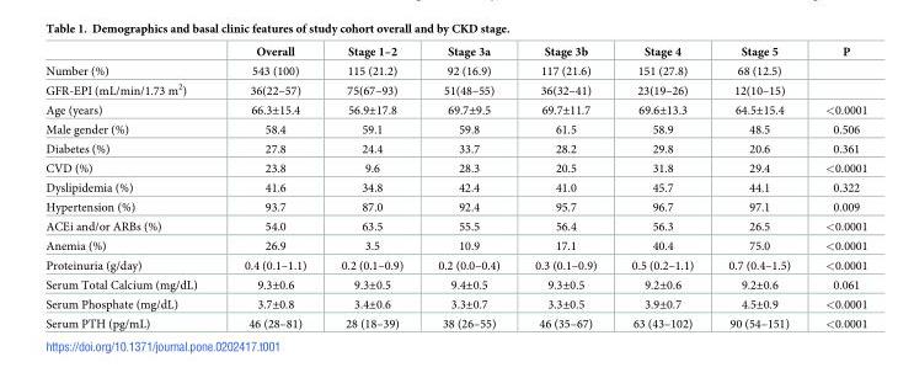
<table><thead><tr><td></td><td>Overall</td><td>Stage 1–2</td><td>Stage 3a</td><td>Stage 3b</td><td>Stage 4</td><td>Stage 5</td><td>P</td></tr></thead><tbody><tr><td>Number (%)</td><td>543 (100)</td><td>115 (21.2)</td><td>92 (16.9)</td><td>117 (21.6)</td><td>151 (27.8)</td><td>68 (12.5)</td><td></td></tr><tr><td>GFR-EPI (mL/min/1.73 m<sup>2</sup>)</td><td>36(22–57)</td><td>75(67–93)</td><td>51(48–55)</td><td>36(32–41)</td><td>23(19–26)</td><td>12(10–15)</td><td></td></tr><tr><td>Age (years)</td><td>66.3±15.4</td><td>56.9±17.8</td><td>69.7±9.5</td><td>69.7±11.7</td><td>69.6±13.3</td><td>64.5±15.4</td><td>&lt;0.0001</td></tr><tr><td>Male gender (%)</td><td>58.4</td><td>59.1</td><td>59.8</td><td>61.5</td><td>58.9</td><td>48.5</td><td>0.506</td></tr><tr><td>Diabetes (%)</td><td>27.8</td><td>24.4</td><td>33.7</td><td>28.2</td><td>29.8</td><td>20.6</td><td>0.361</td></tr><tr><td>CVD (%)</td><td>23.8</td><td>9.6</td><td>28.3</td><td>20.5</td><td>31.8</td><td>29.4</td><td>&lt;0.0001</td></tr><tr><td>Dyslipidemia (%)</td><td>41.6</td><td>34.8</td><td>42.4</td><td>41.0</td><td>45.7</td><td>44.1</td><td>0.322</td></tr><tr><td>Hypertension (%)</td><td>93.7</td><td>87.0</td><td>92.4</td><td>95.7</td><td>96.7</td><td>97.1</td><td>0.009</td></tr><tr><td>ACEi and/or ARBs (%)</td><td>54.0</td><td>63.5</td><td>55.5</td><td>56.4</td><td>56.3</td><td>26.5</td><td>&lt;0.0001</td></tr><tr><td>Anemia (%)</td><td>26.9</td><td>3.5</td><td>10.9</td><td>17.1</td><td>40.4</td><td>75.0</td><td>&lt;0.0001</td></tr><tr><td>Proteinuria (g/day)</td><td>0.4 (0.1–1.1)</td><td>0.2 (0.1–0.9)</td><td>0.2 (0.0–0.4)</td><td>0.3 (0.1–0.9)</td><td>0.5 (0.2–1.1)</td><td>0.7 (0.4–1.5)</td><td>&lt;0.0001</td></tr><tr><td>Serum Total Calcium (mg/dL)</td><td>9.3±0.6</td><td>9.3±0.5</td><td>9.4±0.5</td><td>9.3±0.5</td><td>9.2±0.6</td><td>9.2±0.6</td><td>0.061</td></tr><tr><td>Serum Phosphate (mg/dL)</td><td>3.7±0.8</td><td>3.4±0.6</td><td>3.3±0.7</td><td>3.3±0.5</td><td>3.9±0.7</td><td>4.5±0.9</td><td>&lt;0.0001</td></tr><tr><td>Serum PTH (pg/mL)</td><td>46 (28–81)</td><td>28 (18–39)</td><td>38 (26–55)</td><td>46 (35–67)</td><td>63 (43–102)</td><td>90 (54–151)</td><td>&lt;0.0001</td></tr></tbody></table>